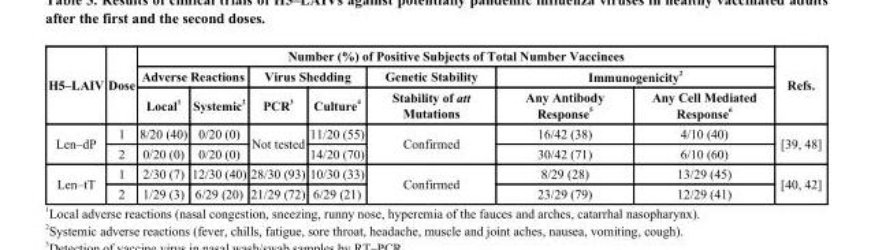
<table><thead><tr><td rowspan="3">H5–LAIV</td><td rowspan="3">Dose</td><td colspan="7">Number (%) of Positive Subjects of Total Number Vaccinees</td><td rowspan="3">Refs.</td></tr><tr><td colspan="2">Adverse Reactions</td><td colspan="2">Virus Shedding</td><td rowspan="2">Genetic Stability Stability of att Mutations</td><td colspan="2">Immunogenicity <sup>2</sup></td></tr><tr><td>Local <sup>1</sup></td><td>Systemic <sup>2</sup></td><td>PCR <sup>3</sup></td><td>Culture <sup>4</sup></td><td>Any Antibody Response <sup>5</sup></td><td>Any Cell Mediated Response <sup>6</sup></td></tr></thead><tbody><tr><td rowspan="2">Len–dP</td><td>1</td><td>8/20 (40)</td><td>0/20 (0)</td><td rowspan="2">Not tested</td><td>11/20 (55)</td><td rowspan="2">Confirmed</td><td>16/42 (38)</td><td>4/10 (40)</td><td rowspan="2">[39, 48]</td></tr><tr><td>2</td><td>0/20 (0)</td><td>0/20 (0)</td><td>14/20 (70)</td><td>30/42 (71)</td><td>6/10 (60)</td></tr><tr><td rowspan="2">Len–tT</td><td>1</td><td>2/30 (7)</td><td>12/30 (40)</td><td>28/30 (93)</td><td>10/30 (33)</td><td rowspan="2">Confirmed</td><td>8/29 (28)</td><td>13/29 (45)</td><td rowspan="2">[40, 42]</td></tr><tr><td>2</td><td>1/29 (3)</td><td>6/29 (20)</td><td>21/29 (72)</td><td>6/29 (21)</td><td>23/29 (79)</td><td>12/29 (41)</td></tr></tbody></table>